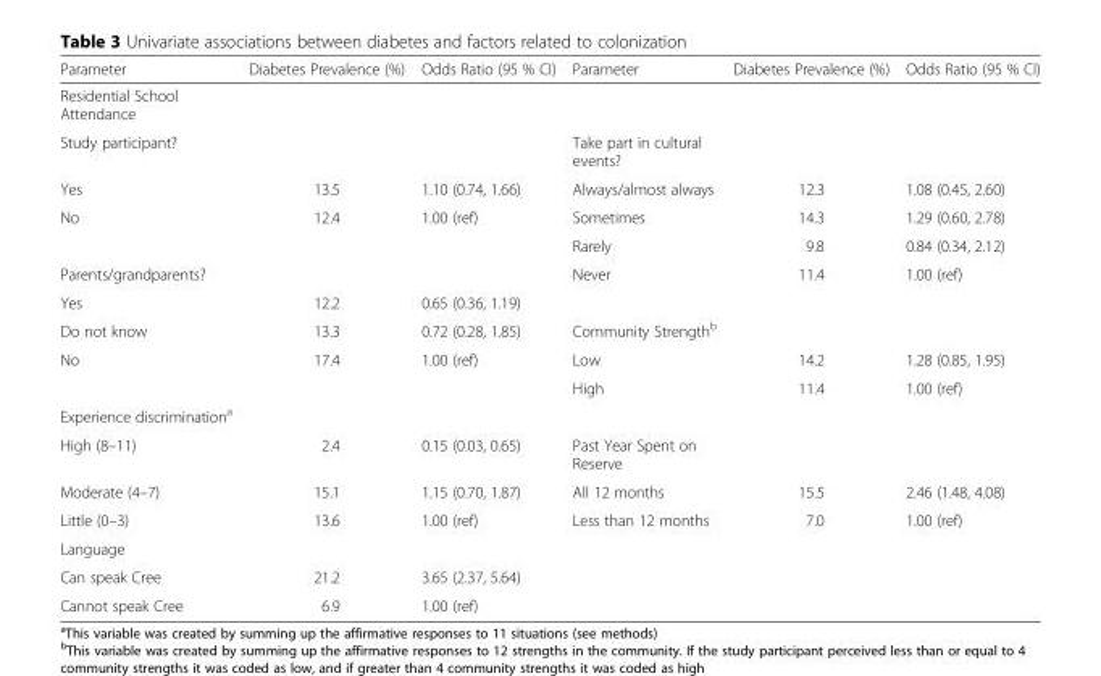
<table><thead><tr><td>Parameter</td><td>Diabetes Prevalence (%)</td><td>Odds Ratio (95 % CI)</td><td>Parameter</td><td>Diabetes Prevalence (%)</td><td>Odds Ratio (95 % CI)</td></tr></thead><tbody><tr><td colspan="6">Residential School Attendance</td></tr><tr><td>Study participant?</td><td></td><td></td><td>Take part in cultural events?</td><td></td><td></td></tr><tr><td>Yes</td><td>13.5</td><td>1.10 (0.74, 1.66)</td><td>Always/almost always</td><td>12.3</td><td>1.08 (0.45, 2.60)</td></tr><tr><td rowspan="2">No</td><td>12.4</td><td>1.00 (ref)</td><td>Sometimes</td><td>14.3</td><td>1.29 (0.60, 2.78)</td></tr><tr><td></td><td></td><td>Rarely</td><td>9.8</td><td>0.84 (0.34, 2.12)</td></tr><tr><td>Parents/grandparents?</td><td></td><td></td><td>Never</td><td>11.4</td><td>1.00 (ref)</td></tr><tr><td>Yes</td><td>12.2</td><td>0.65 (0.36, 1.19)</td><td></td><td></td><td></td></tr><tr><td>Do not know</td><td>13.3</td><td>0.72 (0.28, 1.85)</td><td>Community Strength<sup>b</sup></td><td></td><td></td></tr><tr><td rowspan="2">No</td><td>17.4</td><td>1.00 (ref)</td><td>Low</td><td>14.2</td><td>1.28 (0.85, 1.95)</td></tr><tr><td></td><td></td><td>High</td><td>11.4</td><td>1.00 (ref)</td></tr><tr><td colspan="6">Experience discrimination<sup>a</sup></td></tr><tr><td>High (8–11)</td><td>2.4</td><td>0.15 (0.03, 0.65)</td><td>Past Year Spent on Reserve</td><td></td><td></td></tr><tr><td>Moderate (4–7)</td><td>15.1</td><td>1.15 (0.70, 1.87)</td><td>All 12 months</td><td>15.5</td><td>2.46 (1.48, 4.08)</td></tr><tr><td>Little (0–3)</td><td>13.6</td><td>1.00 (ref)</td><td>Less than 12 months</td><td>7.0</td><td>1.00 (ref)</td></tr><tr><td colspan="6">Language</td></tr><tr><td>Can speak Cree</td><td>21.2</td><td>3.65 (2.37, 5.64)</td><td></td><td></td><td></td></tr><tr><td>Cannot speak Cree</td><td>6.9</td><td>1.00 (ref)</td><td></td><td></td><td></td></tr></tbody></table>